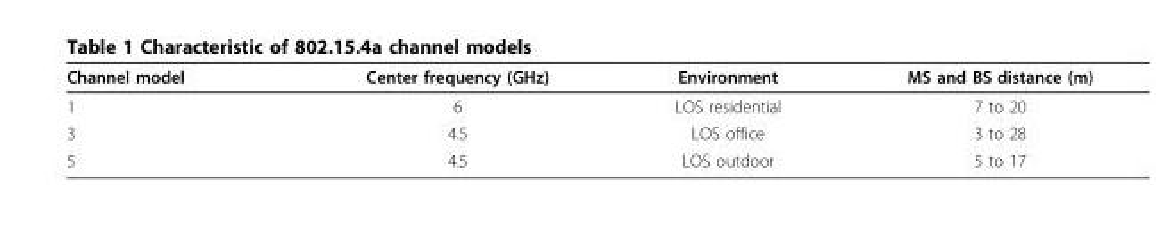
<table><thead><tr><td>Channel model</td><td>Center frequency (GHz)</td><td>Environment</td><td>MS and BS distance (m)</td></tr></thead><tbody><tr><td>1</td><td>6</td><td>LOS residential</td><td>7 to 20</td></tr><tr><td>3</td><td>4.5</td><td>LOS office</td><td>3 to 28</td></tr><tr><td>5</td><td>4.5</td><td>LOS outdoor</td><td>5 to 17</td></tr></tbody></table>